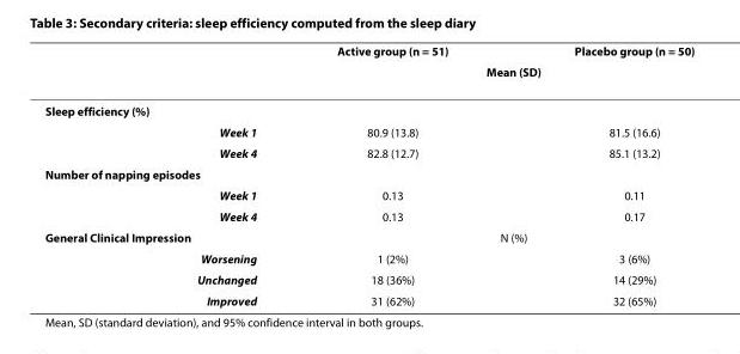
<table><thead><tr><td rowspan="2"></td><td>Active group (n = 51)</td><td>Placebo group (n = 50)</td></tr><tr><td colspan="2">Mean (SD)</td></tr></thead><tbody><tr><td colspan="3">Sleep efficiency (%)</td></tr><tr><td>Week 1</td><td>80.9 (13.8)</td><td>81.5 (16.6)</td></tr><tr><td>Week 4</td><td>82.8 (12.7)</td><td>85.1 (13.2)</td></tr><tr><td colspan="3">Number of napping episodes</td></tr><tr><td>Week 1</td><td>0.13</td><td>0.11</td></tr><tr><td>Week 4</td><td>0.13</td><td>0.17</td></tr><tr><td>General Clinical Impression</td><td colspan="2">N (%)</td></tr><tr><td>Worsening</td><td>1 (2%)</td><td>3 (6%)</td></tr><tr><td>Unchanged</td><td>18 (36%)</td><td>14 (29%)</td></tr><tr><td>Improved</td><td>31 (62%)</td><td>32 (65%)</td></tr></tbody></table>